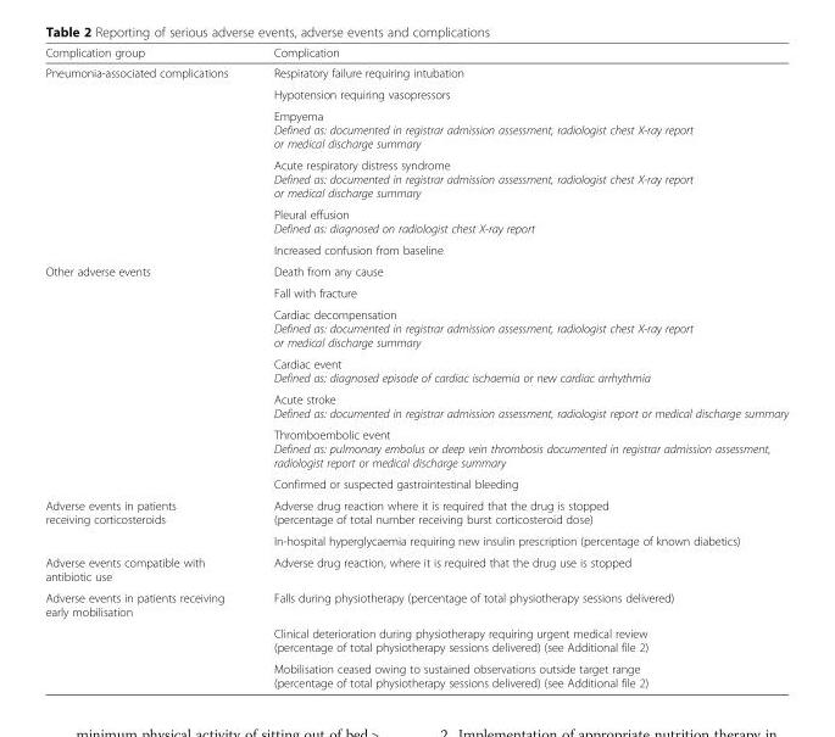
<table><thead><tr><td>Complication group</td><td>Complication</td></tr></thead><tbody><tr><td rowspan="6">Pneumonia-associated complications</td><td>Respiratory failure requiring intubation</td></tr><tr><td>Hypotension requiring vasopressors</td></tr><tr><td>Empyema Defined as: documented in registrar admission assessment, radiologist chest X-ray report or medical discharge summary</td></tr><tr><td>Acute respiratory distress syndrome Defined as: documented in registrar admission assessment, radiologist chest X-ray report or medical discharge summary</td></tr><tr><td>Pleural effusion Defined as: diagnosed on radiologist chest X-ray report</td></tr><tr><td>Increased confusion from baseline</td></tr><tr><td rowspan="7">Other adverse events</td><td>Death from any cause</td></tr><tr><td>Fall with fracture</td></tr><tr><td>Cardiac decompensation Defined as: documented in registrar admission assessment, radiologist chest X-ray report or medical discharge summary</td></tr><tr><td>Cardiac event Defined as: diagnosed episode of cardiac ischaemia or new cardiac arrhythmia</td></tr><tr><td>Acute stroke Defined as: documented in registrar admission assessment, radiologist report or medical discharge summary</td></tr><tr><td>Thromboembolic event Defined as: pulmonary embolus or deep vein thrombosis documented in registrar admission assessment, radiologist report or medical discharge summary</td></tr><tr><td>Confirmed or suspected gastrointestinal bleeding</td></tr><tr><td rowspan="2">Adverse events in patients receiving corticosteroids</td><td>Adverse drug reaction where it is required that the drug is stopped (percentage of total number receiving burst corticosteroid dose)</td></tr><tr><td>In-hospital hyperglycaemia requiring new insulin prescription (percentage of known diabetics)</td></tr><tr><td>Adverse events compatible with antibiotic use</td><td>Adverse drug reaction, where it is required that the drug use is stopped</td></tr><tr><td rowspan="3">Adverse events in patients receiving early mobilisation</td><td>Falls during physiotherapy (percentage of total physiotherapy sessions delivered)</td></tr><tr><td>Clinical deterioration during physiotherapy requiring urgent medical review (percentage of total physiotherapy sessions delivered) (see Additional file 2)</td></tr><tr><td>Mobilisation ceased owing to sustained observations outside target range (percentage of total physiotherapy sessions delivered) (see Additional file 2)</td></tr></tbody></table>